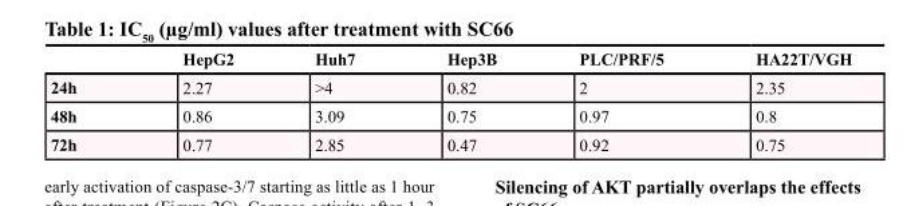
<table><thead><tr><td></td><td>HepG2</td><td>Huh7</td><td>Hep3B</td><td>PLC/PRF/5</td><td>HA22T/VGH</td></tr></thead><tbody><tr><td>24h</td><td>2.27</td><td>&gt;4</td><td>0.82</td><td>2</td><td>2.35</td></tr><tr><td>48h</td><td>0.86</td><td>3.09</td><td>0.75</td><td>0.97</td><td>0.8</td></tr><tr><td>72h</td><td>0.77</td><td>2.85</td><td>0.47</td><td>0.92</td><td>0.75</td></tr></tbody></table>